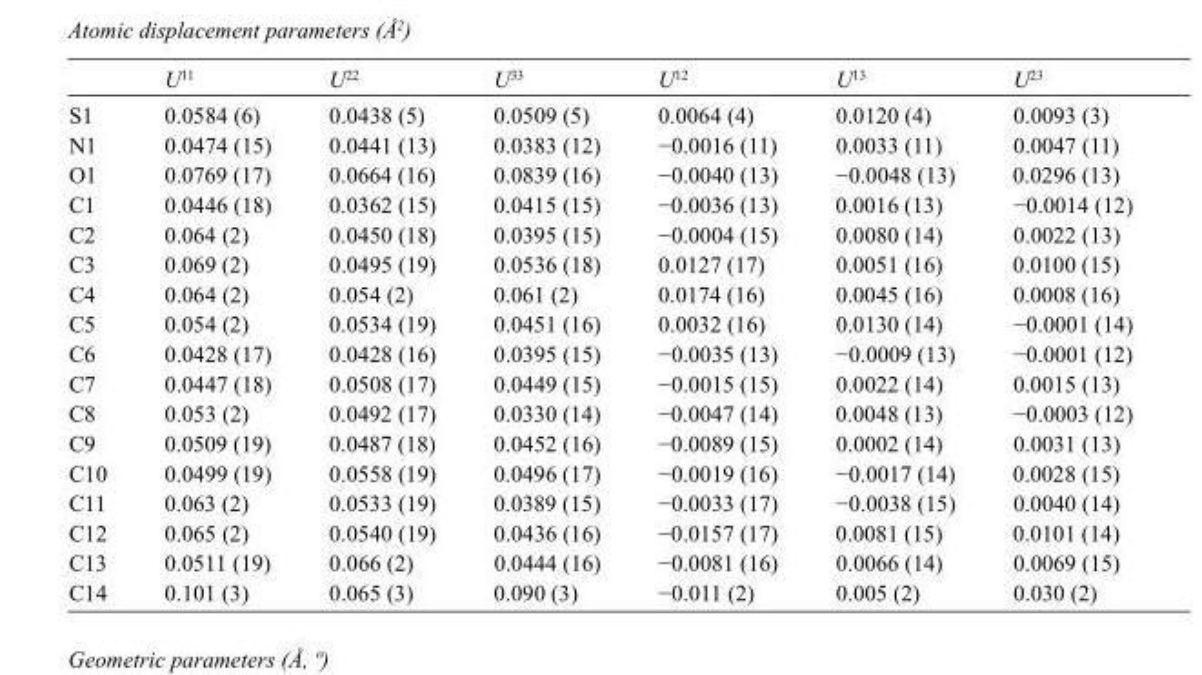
<table><thead><tr><td></td><td>U<sup>11</sup></td><td>U<sup>22</sup></td><td>U<sup>33</sup></td><td>U<sup>12</sup></td><td>U<sup>13</sup></td><td>U<sup>23</sup></td></tr></thead><tbody><tr><td>S1</td><td>0.0584 (6)</td><td>0.0438 (5)</td><td>0.0509 (5)</td><td>0.0064 (4)</td><td>0.0120 (4)</td><td>0.0093 (3)</td></tr><tr><td>N1</td><td>0.0474 (15)</td><td>0.0441 (13)</td><td>0.0383 (12)</td><td>−0.0016 (11)</td><td>0.0033 (11)</td><td>0.0047 (11)</td></tr><tr><td>O1</td><td>0.0769 (17)</td><td>0.0664 (16)</td><td>0.0839 (16)</td><td>−0.0040 (13)</td><td>−0.0048 (13)</td><td>0.0296 (13)</td></tr><tr><td>C1</td><td>0.0446 (18)</td><td>0.0362 (15)</td><td>0.0415 (15)</td><td>−0.0036 (13)</td><td>0.0016 (13)</td><td>−0.0014 (12)</td></tr><tr><td>C2</td><td>0.064 (2)</td><td>0.0450 (18)</td><td>0.0395 (15)</td><td>−0.0004 (15)</td><td>0.0080 (14)</td><td>0.0022 (13)</td></tr><tr><td>C3</td><td>0.069 (2)</td><td>0.0495 (19)</td><td>0.0536 (18)</td><td>0.0127 (17)</td><td>0.0051 (16)</td><td>0.0100 (15)</td></tr><tr><td>C4</td><td>0.064 (2)</td><td>0.054 (2)</td><td>0.061 (2)</td><td>0.0174 (16)</td><td>0.0045 (16)</td><td>0.0008 (16)</td></tr><tr><td>C5</td><td>0.054 (2)</td><td>0.0534 (19)</td><td>0.0451 (16)</td><td>0.0032 (16)</td><td>0.0130 (14)</td><td>−0.0001 (14)</td></tr><tr><td>C6</td><td>0.0428 (17)</td><td>0.0428 (16)</td><td>0.0395 (15)</td><td>−0.0035 (13)</td><td>−0.0009 (13)</td><td>−0.0001 (12)</td></tr><tr><td>C7</td><td>0.0447 (18)</td><td>0.0508 (17)</td><td>0.0449 (15)</td><td>−0.0015 (15)</td><td>0.0022 (14)</td><td>0.0015 (13)</td></tr><tr><td>C8</td><td>0.053 (2)</td><td>0.0492 (17)</td><td>0.0330 (14)</td><td>−0.0047 (14)</td><td>0.0048 (13)</td><td>−0.0003 (12)</td></tr><tr><td>C9</td><td>0.0509 (19)</td><td>0.0487 (18)</td><td>0.0452 (16)</td><td>−0.0089 (15)</td><td>0.0002 (14)</td><td>0.0031 (13)</td></tr><tr><td>C10</td><td>0.0499 (19)</td><td>0.0558 (19)</td><td>0.0496 (17)</td><td>−0.0019 (16)</td><td>−0.0017 (14)</td><td>0.0028 (15)</td></tr><tr><td>C11</td><td>0.063 (2)</td><td>0.0533 (19)</td><td>0.0389 (15)</td><td>−0.0033 (17)</td><td>−0.0038 (15)</td><td>0.0040 (14)</td></tr><tr><td>C12</td><td>0.065 (2)</td><td>0.0540 (19)</td><td>0.0436 (16)</td><td>−0.0157 (17)</td><td>0.0081 (15)</td><td>0.0101 (14)</td></tr><tr><td>C13</td><td>0.0511 (19)</td><td>0.066 (2)</td><td>0.0444 (16)</td><td>−0.0081 (16)</td><td>0.0066 (14)</td><td>0.0069 (15)</td></tr><tr><td>C14</td><td>0.101 (3)</td><td>0.065 (3)</td><td>0.090 (3)</td><td>−0.011 (2)</td><td>0.005 (2)</td><td>0.030 (2)</td></tr></tbody></table>